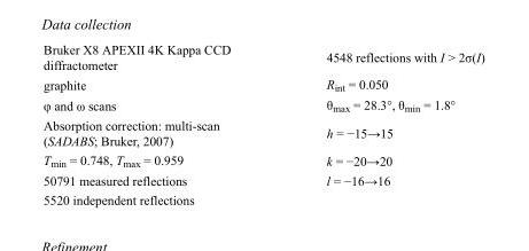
<table><tbody><tr><td>Bruker X8 APEXII 4K Kappa CCD diffractometer</td><td>4548 reflections with I &gt; 2σ(I)</td></tr><tr><td>graphite</td><td>R<sub>int</sub> = 0.050</td></tr><tr><td>φ and ω scans</td><td>θ<sub>max</sub> = 28.3°, θ<sub>min</sub> = 1.8°</td></tr><tr><td>Absorption correction: multi-scan (SADABS; Bruker, 2007)</td><td>h = −15→15</td></tr><tr><td>T<sub>min</sub> = 0.748, T<sub>max</sub> = 0.959</td><td>k = −20→20</td></tr><tr><td>50791 measured reflections</td><td>l = −16→16</td></tr><tr><td>5520 independent reflections</td><td></td></tr></tbody></table>